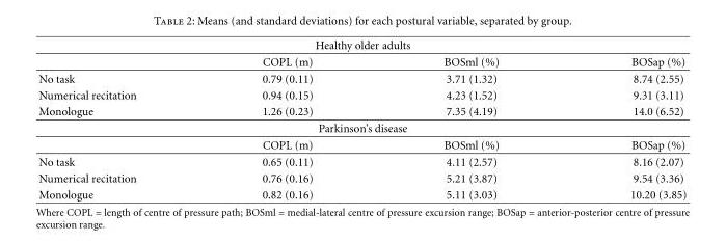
<table><thead><tr><td colspan="4">Healthy older adults</td></tr><tr><td></td><td>COPL (m)</td><td>BOSml (%)</td><td>BOSap (%)</td></tr></thead><tbody><tr><td>No task</td><td>0.79 (0.11)</td><td>3.71 (1.32)</td><td>8.74 (2.55)</td></tr><tr><td>Numerical recitation</td><td>0.94 (0.15)</td><td>4.23 (1.52)</td><td>9.31 (3.11)</td></tr><tr><td>Monologue</td><td>1.26 (0.23)</td><td>7.35 (4.19)</td><td>14.0 (6.52)</td></tr><tr><td colspan="4">Parkinson’s disease</td></tr><tr><td></td><td>COPL (m)</td><td>BOSml (%)</td><td>BOSap (%)</td></tr><tr><td>No task</td><td>0.65 (0.11)</td><td>4.11 (2.57)</td><td>8.16 (2.07)</td></tr><tr><td>Numerical recitation</td><td>0.76 (0.16)</td><td>5.21 (3.87)</td><td>9.54 (3.36)</td></tr><tr><td>Monologue</td><td>0.82 (0.16)</td><td>5.11 (3.03)</td><td>10.20 (3.85)</td></tr></tbody></table>